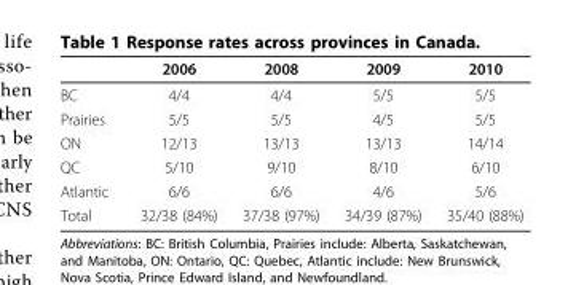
<table><thead><tr><td></td><td>2006</td><td>2008</td><td>2009</td><td>2010</td></tr></thead><tbody><tr><td>BC</td><td>4/4</td><td>4/4</td><td>5/5</td><td>5/5</td></tr><tr><td>Prairies</td><td>5/5</td><td>5/5</td><td>4/5</td><td>5/5</td></tr><tr><td>ON</td><td>12/13</td><td>13/13</td><td>13/13</td><td>14/14</td></tr><tr><td>QC</td><td>5/10</td><td>9/10</td><td>8/10</td><td>6/10</td></tr><tr><td>Atlantic</td><td>6/6</td><td>6/6</td><td>4/6</td><td>5/6</td></tr><tr><td>Total</td><td>32/38 (84%)</td><td>37/38 (97%)</td><td>34/39 (87%)</td><td>35/40 (88%)</td></tr></tbody></table>